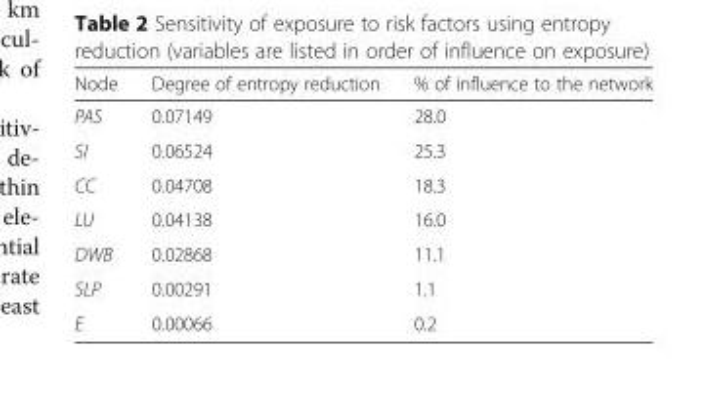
<table><thead><tr><td>Node</td><td>Degree of entropy reduction</td><td>% of influence to the network</td></tr></thead><tbody><tr><td>PAS</td><td>0.07149</td><td>28.0</td></tr><tr><td>SI</td><td>0.06524</td><td>25.3</td></tr><tr><td>CC</td><td>0.04708</td><td>18.3</td></tr><tr><td>LU</td><td>0.04138</td><td>16.0</td></tr><tr><td>DWB</td><td>0.02868</td><td>11.1</td></tr><tr><td>SLP</td><td>0.00291</td><td>1.1</td></tr><tr><td>E</td><td>0.00066</td><td>0.2</td></tr></tbody></table>